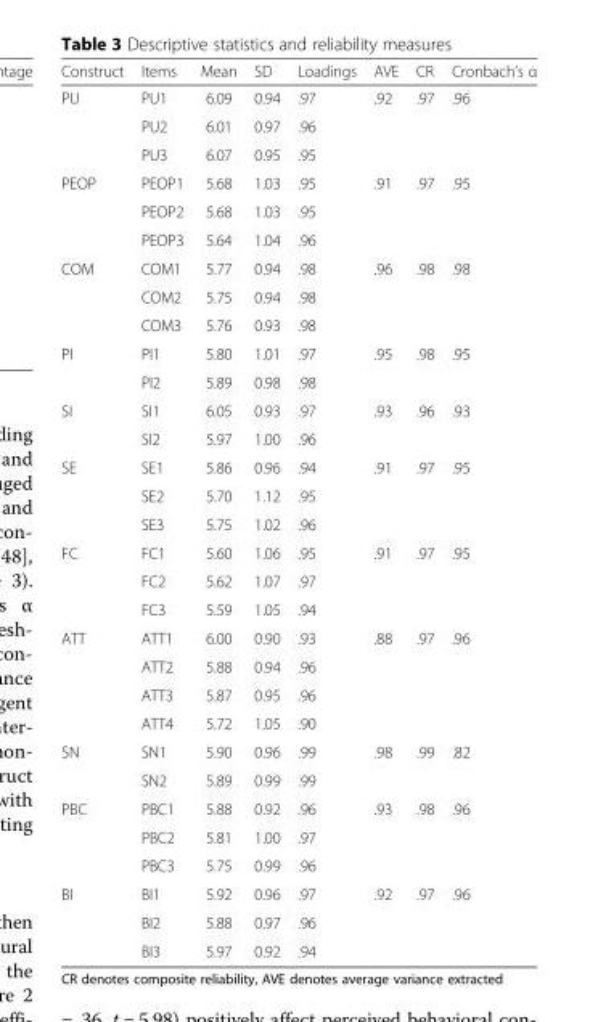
<table><thead><tr><td>Construct</td><td>Items</td><td>Mean</td><td>SD</td><td>Loadings</td><td>AVE</td><td>CR</td><td>Cronbach’s α</td></tr></thead><tbody><tr><td rowspan="3">PU</td><td>PU1</td><td>6.09</td><td>0.94</td><td>.97</td><td rowspan="3">.92</td><td rowspan="3">.97</td><td rowspan="3">.96</td></tr><tr><td>PU2</td><td>6.01</td><td>0.97</td><td>.96</td></tr><tr><td>PU3</td><td>6.07</td><td>0.95</td><td>.95</td></tr><tr><td rowspan="3">PEOP</td><td>PEOP1</td><td>5.68</td><td>1.03</td><td>.95</td><td rowspan="3">.91</td><td rowspan="3">.97</td><td rowspan="3">.95</td></tr><tr><td>PEOP2</td><td>5.68</td><td>1.03</td><td>.95</td></tr><tr><td>PEOP3</td><td>5.64</td><td>1.04</td><td>.96</td></tr><tr><td rowspan="3">COM</td><td>COM1</td><td>5.77</td><td>0.94</td><td>.98</td><td rowspan="3">.96</td><td rowspan="3">.98</td><td rowspan="3">.98</td></tr><tr><td>COM2</td><td>5.75</td><td>0.94</td><td>.98</td></tr><tr><td>COM3</td><td>5.76</td><td>0.93</td><td>.98</td></tr><tr><td rowspan="2">PI</td><td>PI1</td><td>5.80</td><td>1.01</td><td>.97</td><td rowspan="2">.95</td><td rowspan="2">.98</td><td rowspan="2">.95</td></tr><tr><td>PI2</td><td>5.89</td><td>0.98</td><td>.98</td></tr><tr><td rowspan="2">SI</td><td>SI1</td><td>6.05</td><td>0.93</td><td>.97</td><td rowspan="2">.93</td><td rowspan="2">.96</td><td rowspan="2">.93</td></tr><tr><td>SI2</td><td>5.97</td><td>1.00</td><td>.96</td></tr><tr><td rowspan="3">SE</td><td>SE1</td><td>5.86</td><td>0.96</td><td>.94</td><td rowspan="3">.91</td><td rowspan="3">.97</td><td rowspan="3">.95</td></tr><tr><td>SE2</td><td>5.70</td><td>1.12</td><td>.95</td></tr><tr><td>SE3</td><td>5.75</td><td>1.02</td><td>.96</td></tr><tr><td rowspan="3">FC</td><td>FC1</td><td>5.60</td><td>1.06</td><td>.95</td><td rowspan="3">.91</td><td rowspan="3">.97</td><td rowspan="3">.95</td></tr><tr><td>FC2</td><td>5.62</td><td>1.07</td><td>.97</td></tr><tr><td>FC3</td><td>5.59</td><td>1.05</td><td>.94</td></tr><tr><td rowspan="4">ATT</td><td>ATT1</td><td>6.00</td><td>0.90</td><td>.93</td><td rowspan="4">.88</td><td rowspan="4">.97</td><td rowspan="4">.96</td></tr><tr><td>ATT2</td><td>5.88</td><td>0.94</td><td>.96</td></tr><tr><td>ATT3</td><td>5.87</td><td>0.95</td><td>.96</td></tr><tr><td>ATT4</td><td>5.72</td><td>1.05</td><td>.90</td></tr><tr><td rowspan="2">SN</td><td>SN1</td><td>5.90</td><td>0.96</td><td>.99</td><td rowspan="2">.98</td><td rowspan="2">.99</td><td rowspan="2">.82</td></tr><tr><td>SN2</td><td>5.89</td><td>0.99</td><td>.99</td></tr><tr><td rowspan="3">PBC</td><td>PBC1</td><td>5.88</td><td>0.92</td><td>.96</td><td rowspan="3">.93</td><td rowspan="3">.98</td><td rowspan="3">.96</td></tr><tr><td>PBC2</td><td>5.81</td><td>1.00</td><td>.97</td></tr><tr><td>PBC3</td><td>5.75</td><td>0.99</td><td>.96</td></tr><tr><td rowspan="3">BI</td><td>BI1</td><td>5.92</td><td>0.96</td><td>.97</td><td rowspan="3">.92</td><td rowspan="3">.97</td><td rowspan="3">.96</td></tr><tr><td>BI2</td><td>5.88</td><td>0.97</td><td>.96</td></tr><tr><td>BI3</td><td>5.97</td><td>0.92</td><td>.94</td></tr></tbody></table>